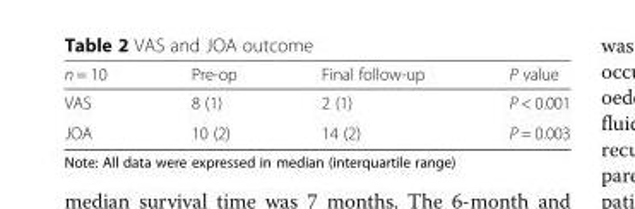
<table><thead><tr><td>n = 10</td><td>Pre-op</td><td>Final follow-up</td><td>P value</td></tr></thead><tbody><tr><td>VAS</td><td>8 (1)</td><td>2 (1)</td><td>P &lt; 0.001</td></tr><tr><td>JOA</td><td>10 (2)</td><td>14 (2)</td><td>P = 0.003</td></tr></tbody></table>